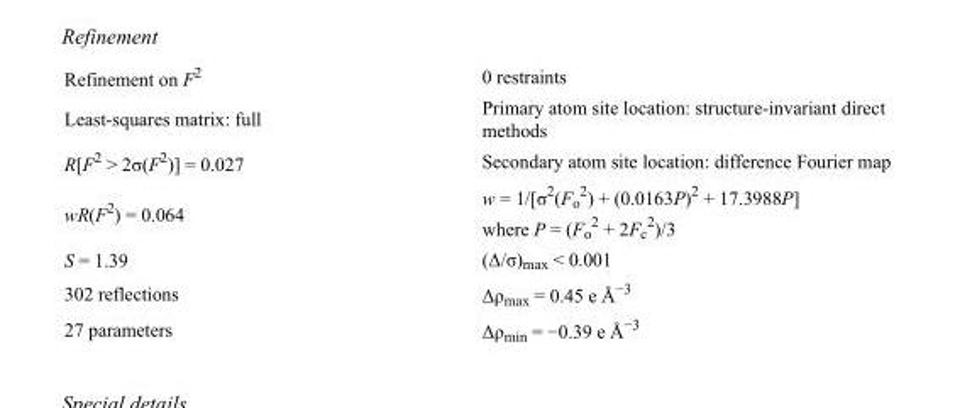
<table><tbody><tr><td>Refinement on F<sup>2</sup></td><td>0 restraints</td></tr><tr><td>Least-squares matrix: full</td><td>Primary atom site location: structure-invariant direct methods</td></tr><tr><td>R[F<sup>2</sup> &gt; 2σ(F<sup>2</sup>)] = 0.027</td><td>Secondary atom site location: difference Fourier map</td></tr><tr><td>wR(F<sup>2</sup>) = 0.064</td><td>w = 1/[σ<sup>2</sup>(F<sub>o</sub> <sup>2</sup>) + (0.0163P)<sup>2</sup> + 17.3988P] where P = (F<sub>o</sub> <sup>2</sup> + 2F<sub>c</sub> <sup>2</sup>)/3</td></tr><tr><td>S = 1.39</td><td>(Δ/σ)<sub>max</sub> &lt; 0.001</td></tr><tr><td>302 reflections</td><td>Δρ<sub>max</sub> = 0.45 e Å<sup>−3</sup></td></tr><tr><td>27 parameters</td><td>Δρ<sub>min</sub> = −0.39 e Å<sup>−3</sup></td></tr></tbody></table>